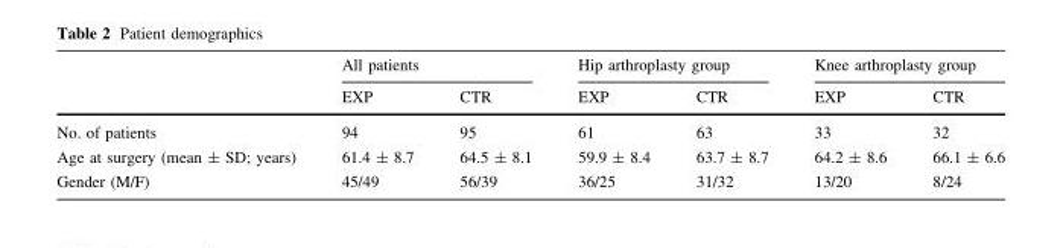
<table><thead><tr><td rowspan="2"></td><td colspan="2">All patients</td><td colspan="2">Hip arthroplasty group</td><td colspan="2">Knee arthroplasty group</td></tr><tr><td>EXP</td><td>CTR</td><td>EXP</td><td>CTR</td><td>EXP</td><td>CTR</td></tr></thead><tbody><tr><td>No. of patients</td><td>94</td><td>95</td><td>61</td><td>63</td><td>33</td><td>32</td></tr><tr><td>Age at surgery (mean ± SD; years)</td><td>61.4 ± 8.7</td><td>64.5 ± 8.1</td><td>59.9 ± 8.4</td><td>63.7 ± 8.7</td><td>64.2 ± 8.6</td><td>66.1 ± 6.6</td></tr><tr><td>Gender (M/F)</td><td>45/49</td><td>56/39</td><td>36/25</td><td>31/32</td><td>13/20</td><td>8/24</td></tr></tbody></table>